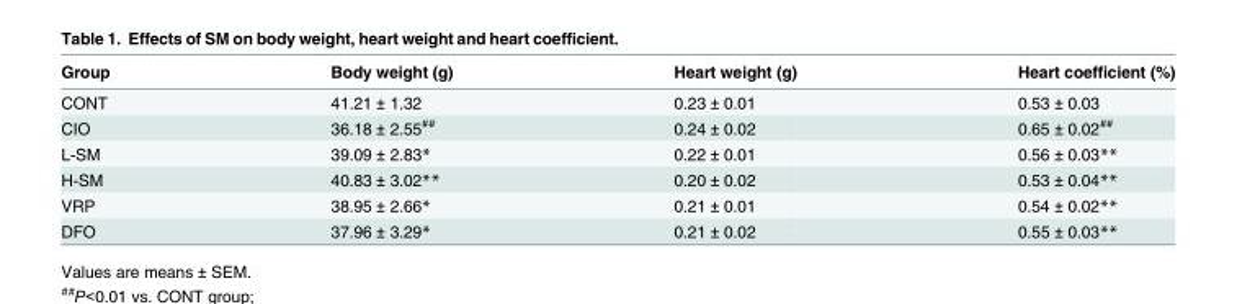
<table><thead><tr><td>Group</td><td>Body weight (g)</td><td>Heart weight (g)</td><td>Heart coefficient (%)</td></tr></thead><tbody><tr><td>CONT</td><td>41.21 ± 1.32</td><td>0.23 ± 0.01</td><td>0.53 ± 0.03</td></tr><tr><td>CIO</td><td>36.18 ± 2.55<sup>##</sup></td><td>0.24 ± 0.02</td><td>0.65 ± 0.02<sup>##</sup></td></tr><tr><td>L-SM</td><td>39.09 ± 2.83*</td><td>0.22 ± 0.01</td><td>0.56 ± 0.03**</td></tr><tr><td>H-SM</td><td>40.83 ± 3.02**</td><td>0.20 ± 0.02</td><td>0.53 ± 0.04**</td></tr><tr><td>VRP</td><td>38.95 ± 2.66*</td><td>0.21 ± 0.01</td><td>0.54 ± 0.02**</td></tr><tr><td>DFO</td><td>37.96 ± 3.29*</td><td>0.21 ± 0.02</td><td>0.55 ± 0.03**</td></tr></tbody></table>